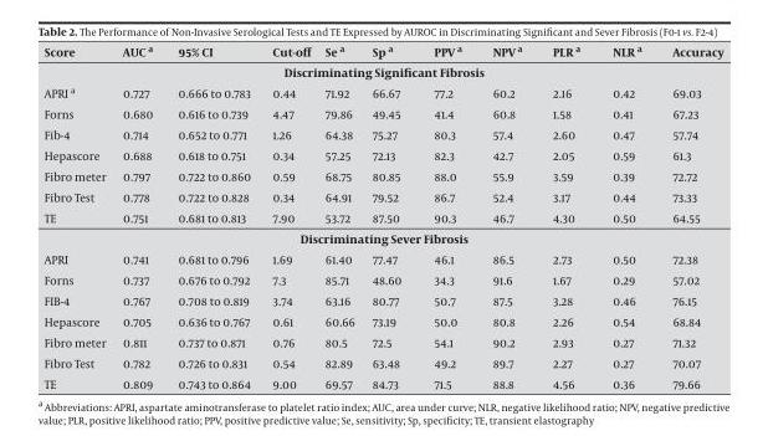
<table><thead><tr><td>Score</td><td>AUC a</td><td>95% CI</td><td>Cut-off</td><td>Se a</td><td>Sp a</td><td>PPV a</td><td>NPV a</td><td>PLR a</td><td>NLR a</td><td>Accuracy</td></tr></thead><tbody><tr><td colspan="11">Discriminating Significant Fibrosis</td></tr><tr><td>APRI a</td><td>0.727</td><td>0.666 to 0.783</td><td>0.44</td><td>71.92</td><td>66.67</td><td>77.2</td><td>60.2</td><td>2.16</td><td>0.42</td><td>69.03</td></tr><tr><td>Forns</td><td>0.680</td><td>0.616 to 0.739</td><td>4.47</td><td>79.86</td><td>49.45</td><td>41.4</td><td>60.8</td><td>1.58</td><td>0.41</td><td>67.23</td></tr><tr><td>Fib-4</td><td>0.714</td><td>0.652 to 0.771</td><td>1.26</td><td>64.38</td><td>75.27</td><td>80.3</td><td>57.4</td><td>2.60</td><td>0.47</td><td>57.74</td></tr><tr><td>Hepascore</td><td>0.688</td><td>0.618 to 0.751</td><td>0.34</td><td>57.25</td><td>72.13</td><td>82.3</td><td>42.7</td><td>2.05</td><td>0.59</td><td>61.3</td></tr><tr><td>Fibro meter</td><td>0.797</td><td>0.722 to 0.860</td><td>0.59</td><td>68.75</td><td>80.85</td><td>88.0</td><td>55.9</td><td>3.59</td><td>0.39</td><td>72.72</td></tr><tr><td>Fibro Test</td><td>0.778</td><td>0.722 to 0.828</td><td>0.34</td><td>64.91</td><td>79.52</td><td>86.7</td><td>52.4</td><td>3.17</td><td>0.44</td><td>73.33</td></tr><tr><td>TE</td><td>0.751</td><td>0.681 to 0.813</td><td>7.90</td><td>53.72</td><td>87.50</td><td>90.3</td><td>46.7</td><td>4.30</td><td>0.50</td><td>64.55</td></tr><tr><td colspan="11">Discriminating Sever Fibrosis</td></tr><tr><td>APRI</td><td>0.741</td><td>0.681 to 0.796</td><td>1.69</td><td>61.40</td><td>77.47</td><td>46.1</td><td>86.5</td><td>2.73</td><td>0.50</td><td>72.38</td></tr><tr><td>Forns</td><td>0.737</td><td>0.676 to 0.792</td><td>7.3</td><td>85.71</td><td>48.60</td><td>34.3</td><td>91.6</td><td>1.67</td><td>0.29</td><td>57.02</td></tr><tr><td>FIB-4</td><td>0.767</td><td>0.708 to 0.819</td><td>3.74</td><td>63.16</td><td>80.77</td><td>50.7</td><td>87.5</td><td>3.28</td><td>0.46</td><td>76.15</td></tr><tr><td>Hepascore</td><td>0.705</td><td>0.636 to 0.767</td><td>0.61</td><td>60.66</td><td>73.19</td><td>50.0</td><td>80.8</td><td>2.26</td><td>0.54</td><td>68.84</td></tr><tr><td>Fibro meter</td><td>0.811</td><td>0.737 to 0.871</td><td>0.76</td><td>80.5</td><td>72.5</td><td>54.1</td><td>90.2</td><td>2.93</td><td>0.27</td><td>71.32</td></tr><tr><td>Fibro Test</td><td>0.782</td><td>0.726 to 0.831</td><td>0.54</td><td>82.89</td><td>63.48</td><td>49.2</td><td>89.7</td><td>2.27</td><td>0.27</td><td>70.07</td></tr><tr><td>TE</td><td>0.809</td><td>0.743 to 0.864</td><td>9.00</td><td>69.57</td><td>84.73</td><td>71.5</td><td>88.8</td><td>4.56</td><td>0.36</td><td>79.66</td></tr></tbody></table>